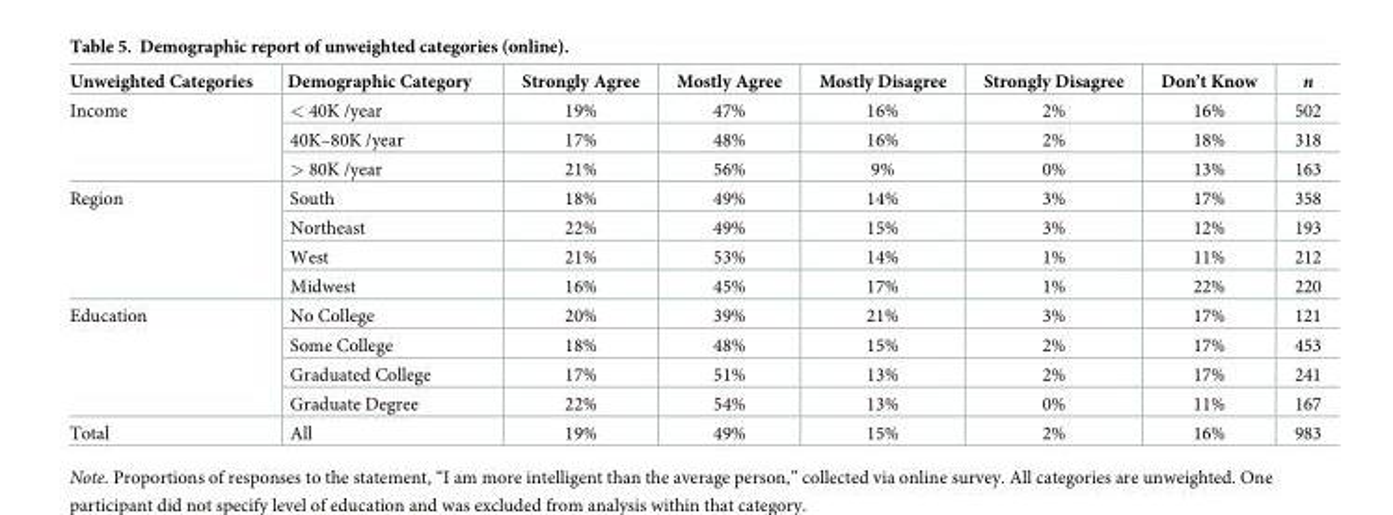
<table><thead><tr><td>Unweighted Categories</td><td>Demographic Category</td><td>Strongly Agree</td><td>Mostly Agree</td><td>Mostly Disagree</td><td>Strongly Disagree</td><td>Don’t Know</td><td>n</td></tr></thead><tbody><tr><td rowspan="3">Income</td><td>&lt; 40K /year</td><td>19%</td><td>47%</td><td>16%</td><td>2%</td><td>16%</td><td>502</td></tr><tr><td>40K–80K /year</td><td>17%</td><td>48%</td><td>16%</td><td>2%</td><td>18%</td><td>318</td></tr><tr><td>&gt; 80K /year</td><td>21%</td><td>56%</td><td>9%</td><td>0%</td><td>13%</td><td>163</td></tr><tr><td rowspan="4">Region</td><td>South</td><td>18%</td><td>49%</td><td>14%</td><td>3%</td><td>17%</td><td>358</td></tr><tr><td>Northeast</td><td>22%</td><td>49%</td><td>15%</td><td>3%</td><td>12%</td><td>193</td></tr><tr><td>West</td><td>21%</td><td>53%</td><td>14%</td><td>1%</td><td>11%</td><td>212</td></tr><tr><td>Midwest</td><td>16%</td><td>45%</td><td>17%</td><td>1%</td><td>22%</td><td>220</td></tr><tr><td rowspan="4">Education</td><td>No College</td><td>20%</td><td>39%</td><td>21%</td><td>3%</td><td>17%</td><td>121</td></tr><tr><td>Some College</td><td>18%</td><td>48%</td><td>15%</td><td>2%</td><td>17%</td><td>453</td></tr><tr><td>Graduated College</td><td>17%</td><td>51%</td><td>13%</td><td>2%</td><td>17%</td><td>241</td></tr><tr><td>Graduate Degree</td><td>22%</td><td>54%</td><td>13%</td><td>0%</td><td>11%</td><td>167</td></tr><tr><td>Total</td><td>All</td><td>19%</td><td>49%</td><td>15%</td><td>2%</td><td>16%</td><td>983</td></tr></tbody></table>